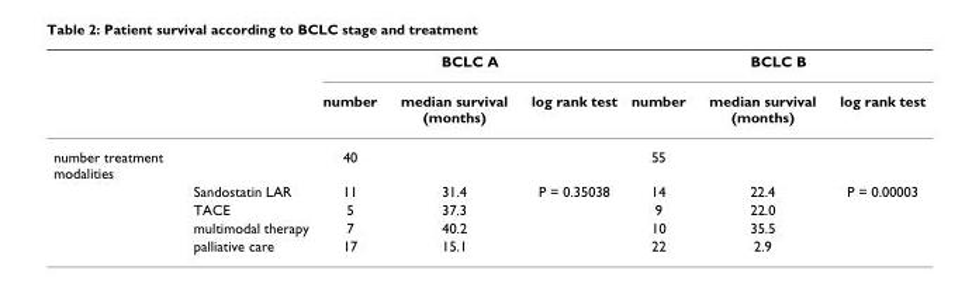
<table><thead><tr><td rowspan="2"></td><td rowspan="2"></td><td colspan="3">BCLC A</td><td colspan="3">BCLC B</td></tr><tr><td>number</td><td>median survival (months)</td><td>log rank test</td><td>number</td><td>median survival (months)</td><td>log rank test</td></tr></thead><tbody><tr><td rowspan="5">number treatment modalities</td><td></td><td>40</td><td></td><td></td><td>55</td><td></td><td></td></tr><tr><td>Sandostatin LAR</td><td>11</td><td>31.4</td><td>P = 0.35038</td><td>14</td><td>22.4</td><td>P = 0.00003</td></tr><tr><td>TACE</td><td>5</td><td>37.3</td><td></td><td>9</td><td>22.0</td><td></td></tr><tr><td>multimodal therapy</td><td>7</td><td>40.2</td><td></td><td>10</td><td>35.5</td><td></td></tr><tr><td>palliative care</td><td>17</td><td>15.1</td><td></td><td>22</td><td>2.9</td><td></td></tr></tbody></table>